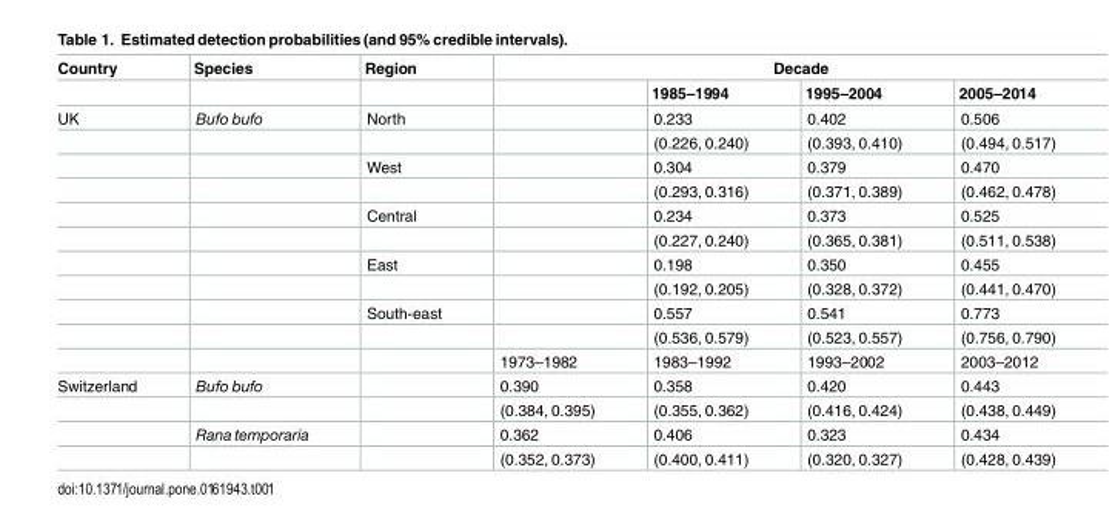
<table><thead><tr><td rowspan="2">Country</td><td rowspan="2">Species</td><td rowspan="2">Region</td><td colspan="4">Decade</td></tr><tr><td></td><td>1985–1994</td><td>1995–2004</td><td>2005–2014</td></tr></thead><tbody><tr><td rowspan="11">UK</td><td>Bufo bufo</td><td>North</td><td></td><td>0.233</td><td>0.402</td><td>0.506</td></tr><tr><td></td><td></td><td></td><td>(0.226, 0.240)</td><td>(0.393, 0.410)</td><td>(0.494, 0.517)</td></tr><tr><td></td><td>West</td><td></td><td>0.304</td><td>0.379</td><td>0.470</td></tr><tr><td></td><td></td><td></td><td>(0.293, 0.316)</td><td>(0.371, 0.389)</td><td>(0.462, 0.478)</td></tr><tr><td></td><td>Central</td><td></td><td>0.234</td><td>0.373</td><td>0.525</td></tr><tr><td></td><td></td><td></td><td>(0.227, 0.240)</td><td>(0.365, 0.381)</td><td>(0.511, 0.538)</td></tr><tr><td></td><td>East</td><td></td><td>0.198</td><td>0.350</td><td>0.455</td></tr><tr><td></td><td></td><td></td><td>(0.192, 0.205)</td><td>(0.328, 0.372)</td><td>(0.441, 0.470)</td></tr><tr><td></td><td>South-east</td><td></td><td>0.557</td><td>0.541</td><td>0.773</td></tr><tr><td></td><td></td><td></td><td>(0.536, 0.579)</td><td>(0.523, 0.557)</td><td>(0.756, 0.790)</td></tr><tr><td></td><td></td><td>1973–1982</td><td>1983–1992</td><td>1993–2002</td><td>2003–2012</td></tr><tr><td rowspan="4">Switzerland</td><td>Bufo bufo</td><td></td><td>0.390</td><td>0.358</td><td>0.420</td><td>0.443</td></tr><tr><td></td><td></td><td>(0.384, 0.395)</td><td>(0.355, 0.362)</td><td>(0.416, 0.424)</td><td>(0.438, 0.449)</td></tr><tr><td>Rana temporaria</td><td></td><td>0.362</td><td>0.406</td><td>0.323</td><td>0.434</td></tr><tr><td></td><td></td><td>(0.352, 0.373)</td><td>(0.400, 0.411)</td><td>(0.320, 0.327)</td><td>(0.428, 0.439)</td></tr></tbody></table>